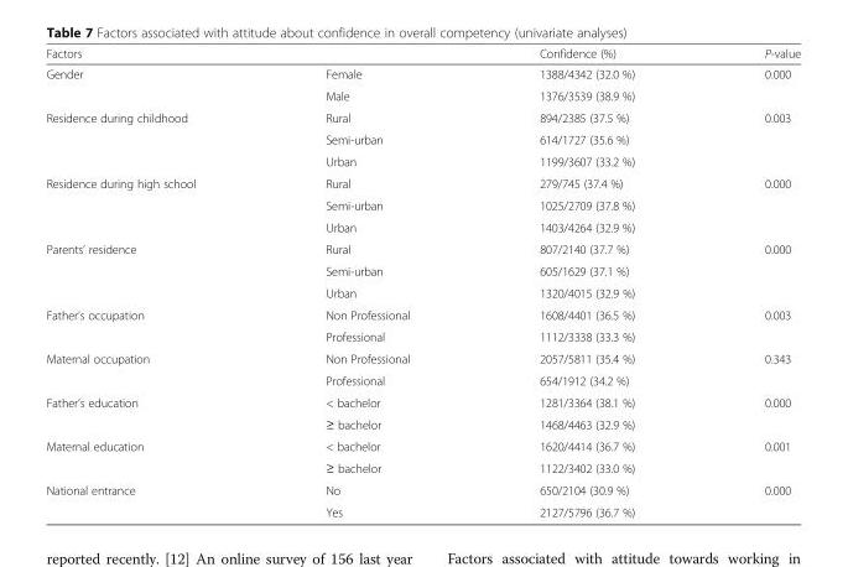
<table><thead><tr><td>Factors</td><td></td><td>Confidence (%)</td><td>P-value</td></tr></thead><tbody><tr><td rowspan="2">Gender</td><td>Female</td><td>1388/4342 (32.0 %)</td><td rowspan="2">0.000</td></tr><tr><td>Male</td><td>1376/3539 (38.9 %)</td></tr><tr><td rowspan="3">Residence during childhood</td><td>Rural</td><td>894/2385 (37.5 %)</td><td rowspan="3">0.003</td></tr><tr><td>Semi-urban</td><td>614/1727 (35.6 %)</td></tr><tr><td>Urban</td><td>1199/3607 (33.2 %)</td></tr><tr><td rowspan="3">Residence during high school</td><td>Rural</td><td>279/745 (37.4 %)</td><td rowspan="3">0.000</td></tr><tr><td>Semi-urban</td><td>1025/2709 (37.8 %)</td></tr><tr><td>Urban</td><td>1403/4264 (32.9 %)</td></tr><tr><td rowspan="3">Parents’ residence</td><td>Rural</td><td>807/2140 (37.7 %)</td><td rowspan="3">0.000</td></tr><tr><td>Semi-urban</td><td>605/1629 (37.1 %)</td></tr><tr><td>Urban</td><td>1320/4015 (32.9 %)</td></tr><tr><td rowspan="2">Father’s occupation</td><td>Non Professional</td><td>1608/4401 (36.5 %)</td><td rowspan="2">0.003</td></tr><tr><td>Professional</td><td>1112/3338 (33.3 %)</td></tr><tr><td rowspan="2">Maternal occupation</td><td>Non Professional</td><td>2057/5811 (35.4 %)</td><td rowspan="2">0.343</td></tr><tr><td>Professional</td><td>654/1912 (34.2 %)</td></tr><tr><td rowspan="2">Father’s education</td><td>&lt; bachelor</td><td>1281/3364 (38.1 %)</td><td rowspan="2">0.000</td></tr><tr><td>≥ bachelor</td><td>1468/4463 (32.9 %)</td></tr><tr><td rowspan="2">Maternal education</td><td>&lt; bachelor</td><td>1620/4414 (36.7 %)</td><td rowspan="2">0.001</td></tr><tr><td>≥ bachelor</td><td>1122/3402 (33.0 %)</td></tr><tr><td rowspan="2">National entrance</td><td>No</td><td>650/2104 (30.9 %)</td><td rowspan="2">0.000</td></tr><tr><td>Yes</td><td>2127/5796 (36.7 %)</td></tr></tbody></table>